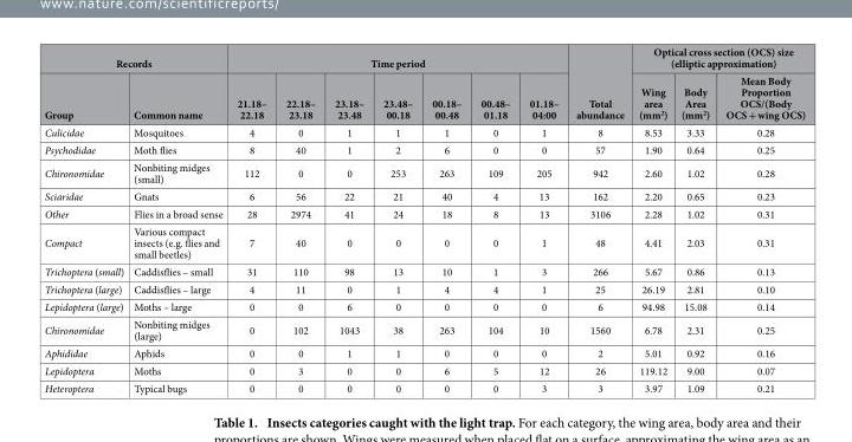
<table><thead><tr><td colspan="2">Records</td><td colspan="7">Time period</td><td rowspan="2">Total abundance</td><td colspan="3">Optical cross section (OCS) size (elliptic approximation)</td></tr><tr><td>Group</td><td>Common name</td><td>21.18– 22.18</td><td>22.18– 23.18</td><td>23.18– 23.48</td><td>23.48– 00.18</td><td>00.18– 00.48</td><td>00.48– 01.18</td><td>01.18– 04:00</td><td>Wing area (mm<sup>2</sup>)</td><td>Body Area (mm<sup>2</sup>)</td><td>Mean Body Proportion OCS/(Body OCS + wing OCS)</td></tr></thead><tbody><tr><td>Culicidae</td><td>Mosquitoes</td><td>4</td><td>0</td><td>1</td><td>1</td><td>1</td><td>0</td><td>1</td><td>8</td><td>8.53</td><td>3.33</td><td>0.28</td></tr><tr><td>Psychodidae</td><td>Moth flies</td><td>8</td><td>40</td><td>1</td><td>2</td><td>6</td><td>0</td><td>0</td><td>57</td><td>1.90</td><td>0.64</td><td>0.25</td></tr><tr><td>Chironomidae</td><td>Nonbiting midges (small)</td><td>112</td><td>0</td><td>0</td><td>253</td><td>263</td><td>109</td><td>205</td><td>942</td><td>2.60</td><td>1.02</td><td>0.28</td></tr><tr><td>Sciaridae</td><td>Gnats</td><td>6</td><td>56</td><td>22</td><td>21</td><td>40</td><td>4</td><td>13</td><td>162</td><td>2.20</td><td>0.65</td><td>0.23</td></tr><tr><td>Other</td><td>Flies in a broad sense</td><td>28</td><td>2974</td><td>41</td><td>24</td><td>18</td><td>8</td><td>13</td><td>3106</td><td>2.28</td><td>1.02</td><td>0.31</td></tr><tr><td>Compact</td><td>Various compact insects (e.g. flies and small beetles)</td><td>7</td><td>40</td><td>0</td><td>0</td><td>0</td><td>0</td><td>1</td><td>48</td><td>4.41</td><td>2.03</td><td>0.31</td></tr><tr><td>Trichoptera (small)</td><td>Caddisflies – small</td><td>31</td><td>110</td><td>98</td><td>13</td><td>10</td><td>1</td><td>3</td><td>266</td><td>5.67</td><td>0.86</td><td>0.13</td></tr><tr><td>Trichoptera (large)</td><td>Caddisflies – large</td><td>4</td><td>11</td><td>0</td><td>1</td><td>4</td><td>4</td><td>1</td><td>25</td><td>26.19</td><td>2.81</td><td>0.10</td></tr><tr><td>Lepidoptera (large)</td><td>Moths – large</td><td>0</td><td>0</td><td>6</td><td>0</td><td>0</td><td>0</td><td>0</td><td>6</td><td>94.98</td><td>15.08</td><td>0.14</td></tr><tr><td>Chironomidae</td><td>Nonbiting midges (large)</td><td>0</td><td>102</td><td>1043</td><td>38</td><td>263</td><td>104</td><td>10</td><td>1560</td><td>6.78</td><td>2.31</td><td>0.25</td></tr><tr><td>Aphididae</td><td>Aphids</td><td>0</td><td>0</td><td>1</td><td>1</td><td>0</td><td>0</td><td>0</td><td>2</td><td>5.01</td><td>0.92</td><td>0.16</td></tr><tr><td>Lepidoptera</td><td>Moths</td><td>0</td><td>3</td><td>0</td><td>0</td><td>6</td><td>5</td><td>12</td><td>26</td><td>119.12</td><td>9.00</td><td>0.07</td></tr><tr><td>Heteroptera</td><td>Typical bugs</td><td>0</td><td>0</td><td>0</td><td>0</td><td>0</td><td>0</td><td>3</td><td>3</td><td>3.97</td><td>1.09</td><td>0.21</td></tr></tbody></table>